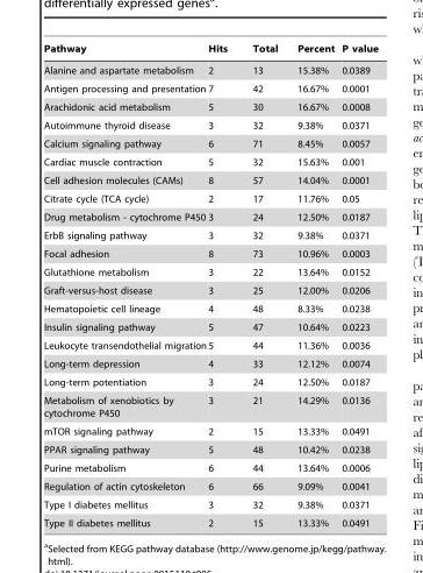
<table><thead><tr><td>Pathway</td><td>Hits</td><td>Total</td><td>Percent</td><td>P value</td></tr></thead><tbody><tr><td>Alanine and aspartate metabolism</td><td>2</td><td>13</td><td>15.38%</td><td>0.0389</td></tr><tr><td>Antigen processing and presentation</td><td>7</td><td>42</td><td>16.67%</td><td>0.0001</td></tr><tr><td>Arachidonic acid metabolism</td><td>5</td><td>30</td><td>16.67%</td><td>0.0008</td></tr><tr><td>Autoimmune thyroid disease</td><td>3</td><td>32</td><td>9.38%</td><td>0.0371</td></tr><tr><td>Calcium signaling pathway</td><td>6</td><td>71</td><td>8.45%</td><td>0.0057</td></tr><tr><td>Cardiac muscle contraction</td><td>5</td><td>32</td><td>15.63%</td><td>0.001</td></tr><tr><td>Cell adhesion molecules (CAMs)</td><td>8</td><td>57</td><td>14.04%</td><td>0.0001</td></tr><tr><td>Citrate cycle (TCA cycle)</td><td>2</td><td>17</td><td>11.76%</td><td>0.05</td></tr><tr><td>Drug metabolism - cytochrome P450</td><td>3</td><td>24</td><td>12.50%</td><td>0.0187</td></tr><tr><td>ErbB signaling pathway</td><td>3</td><td>32</td><td>9.38%</td><td>0.0371</td></tr><tr><td>Focal adhesion</td><td>8</td><td>73</td><td>10.96%</td><td>0.0003</td></tr><tr><td>Glutathione metabolism</td><td>3</td><td>22</td><td>13.64%</td><td>0.0152</td></tr><tr><td>Graft-versus-host disease</td><td>3</td><td>25</td><td>12.00%</td><td>0.0206</td></tr><tr><td>Hematopoietic cell lineage</td><td>4</td><td>48</td><td>8.33%</td><td>0.0238</td></tr><tr><td>Insulin signaling pathway</td><td>5</td><td>47</td><td>10.64%</td><td>0.0223</td></tr><tr><td>Leukocyte transendothelial migration</td><td>5</td><td>44</td><td>11.36%</td><td>0.0036</td></tr><tr><td>Long-term depression</td><td>4</td><td>33</td><td>12.12%</td><td>0.0074</td></tr><tr><td>Long-term potentiation</td><td>3</td><td>24</td><td>12.50%</td><td>0.0187</td></tr><tr><td>Metabolism of xenobiotics by cytochrome P450</td><td>3</td><td>21</td><td>14.29%</td><td>0.0136</td></tr><tr><td>mTOR signaling pathway</td><td>2</td><td>15</td><td>13.33%</td><td>0.0491</td></tr><tr><td>PPAR signaling pathway</td><td>5</td><td>48</td><td>10.42%</td><td>0.0238</td></tr><tr><td>Purine metabolism</td><td>6</td><td>44</td><td>13.64%</td><td>0.0006</td></tr><tr><td>Regulation of actin cytoskeleton</td><td>6</td><td>66</td><td>9.09%</td><td>0.0041</td></tr><tr><td>Type I diabetes mellitus</td><td>3</td><td>32</td><td>9.38%</td><td>0.0371</td></tr><tr><td>Type II diabetes mellitus</td><td>2</td><td>15</td><td>13.33%</td><td>0.0491</td></tr></tbody></table>